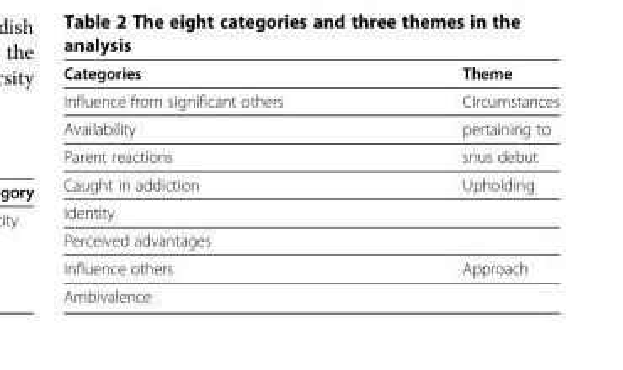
<table><thead><tr><td>Categories</td><td>Theme</td></tr></thead><tbody><tr><td>Influence from significant others</td><td>Circumstances</td></tr><tr><td>Availability</td><td>pertaining to</td></tr><tr><td>Parent reactions</td><td>snus debut</td></tr><tr><td>Caught in addiction</td><td>Upholding</td></tr><tr><td colspan="2">Identity</td></tr><tr><td colspan="2">Perceived advantages</td></tr><tr><td>Influence others</td><td>Approach</td></tr><tr><td>Ambivalence</td><td></td></tr></tbody></table>